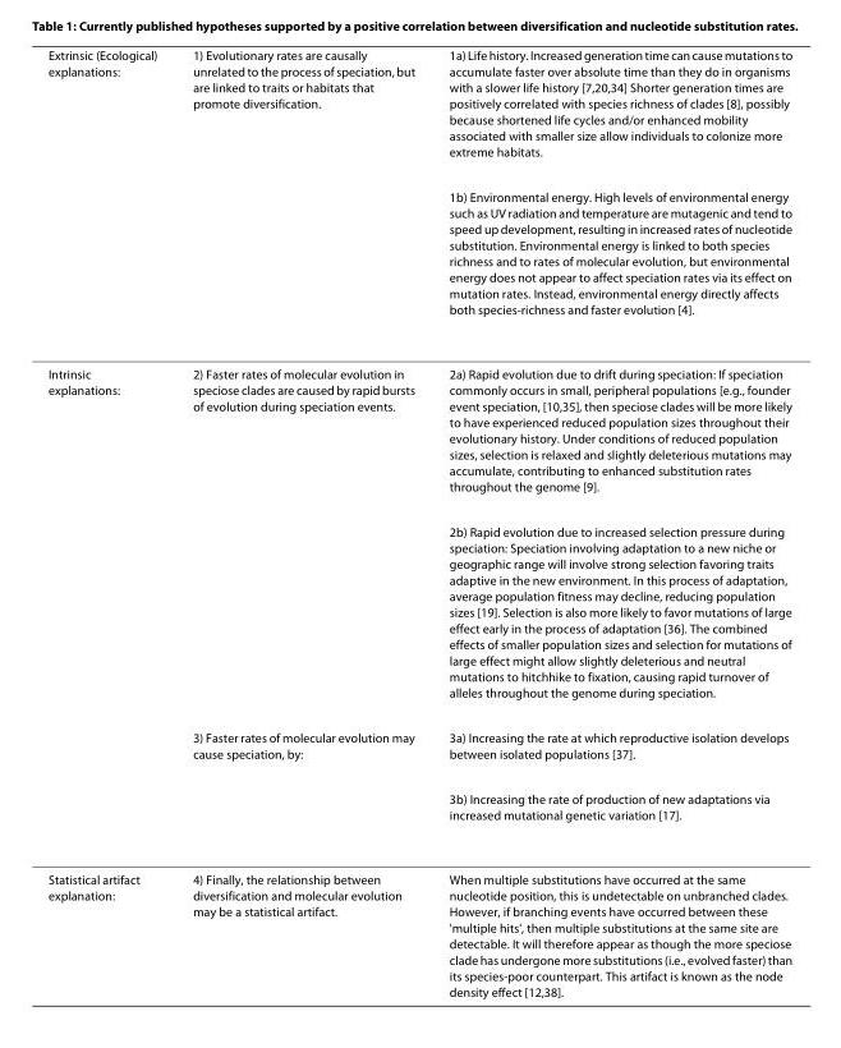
<table><thead><tr><td rowspan="2">Extrinsic (Ecological) explanations:</td><td rowspan="2">1) Evolutionary rates are causally unrelated to the process of speciation, but are linked to traits or habitats that promote diversification.</td><td rowspan="2">1a) Life history. Increased generation time can cause mutations to accumulate faster over absolute time than they do in organisms with a slower life history [7,20,34] Shorter generation times are positively correlated with species richness of clades [8], possibly because shortened life cycles and/or enhanced mobility associated with smaller size allow individuals to colonize more extreme habitats. 1b) Environmental energy. High levels of environmental energy such as UV radiation and temperature are mutagenic and tend to speed up development, resulting in increased rates of nucleotide substitution. Environmental energy is linked to both species richness and to rates of molecular evolution, but environmental energy does not appear to affect speciation rates via its effect on mutation rates. Instead, environmental energy directly affects both species-richness and faster evolution [4].</td></tr><tr></tr></thead><tbody><tr><td rowspan="4">Intrinsic explanations:</td><td>2) Faster rates of molecular evolution in speciose clades are caused by rapid bursts of evolution during speciation events.</td><td>2a) Rapid evolution due to drift during speciation: If speciation commonly occurs in small, peripheral populations [e.g., founder event speciation, [10,35], then speciose clades will be more likely to have experienced reduced population sizes throughout their evolutionary history. Under conditions of reduced population sizes, selection is relaxed and slightly deleterious mutations may accumulate, contributing to enhanced substitution rates throughout the genome [9].</td></tr><tr><td></td><td>2b) Rapid evolution due to increased selection pressure during speciation: Speciation involving adaptation to a new niche or geographic range will involve strong selection favoring traits adaptive in the new environment. In this process of adaptation, average population fitness may decline, reducing population sizes [19]. Selection is also more likely to favor mutations of large effect early in the process of adaptation [36]. The combined effects of smaller population sizes and selection for mutations of large effect might allow slightly deleterious and neutral mutations to hitchhike to fixation, causing rapid turnover of alleles throughout the genome during speciation.</td></tr><tr><td>3) Faster rates of molecular evolution may cause speciation, by:</td><td>3a) Increasing the rate at which reproductive isolation develops between isolated populations [37].</td></tr><tr><td></td><td>3b) Increasing the rate of production of new adaptations via increased mutational genetic variation [17].</td></tr><tr><td>Statistical artifact explanation:</td><td>4) Finally, the relationship between diversification and molecular evolution may be a statistical artifact.</td><td>When multiple substitutions have occurred at the same nucleotide position, this is undetectable on unbranched clades. However, if branching events have occurred between these &#x27;multiple hits&#x27;, then multiple substitutions at the same site are detectable. It will therefore appear as though the more speciose clade has undergone more substitutions (i.e., evolved faster) than its species-poor counterpart. This artifact is known as the node density effect [12,38].</td></tr></tbody></table>